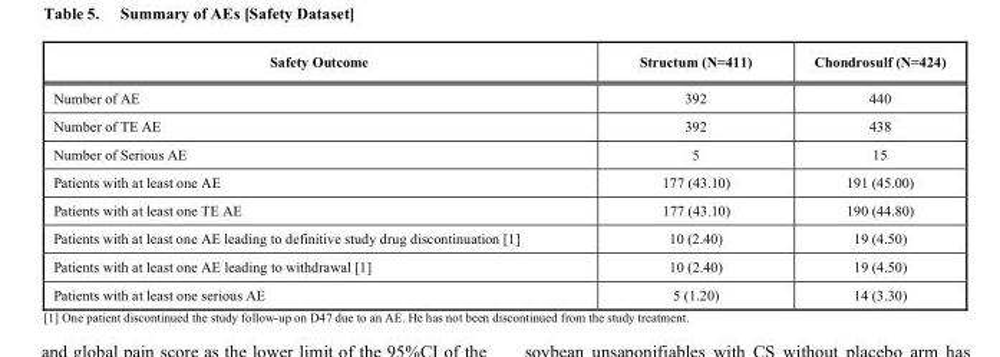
<table><thead><tr><td>Safety Outcome</td><td>Structum (N=411)</td><td>Chondrosulf (N=424)</td></tr></thead><tbody><tr><td>Number of AE</td><td>392</td><td>440</td></tr><tr><td>Number of TE AE</td><td>392</td><td>438</td></tr><tr><td>Number of Serious AE</td><td>5</td><td>15</td></tr><tr><td>Patients with at least one AE</td><td>177 (43.10)</td><td>191 (45.00)</td></tr><tr><td>Patients with at least one TE AE</td><td>177 (43.10)</td><td>190 (44.80)</td></tr><tr><td>Patients with at least one AE leading to definitive study drug discontinuation [1]</td><td>10 (2.40)</td><td>19 (4.50)</td></tr><tr><td>Patients with at least one AE leading to withdrawal [1]</td><td>10 (2.40)</td><td>19 (4.50)</td></tr><tr><td>Patients with at least one serious AE</td><td>5 (1.20)</td><td>14 (3.30)</td></tr></tbody></table>